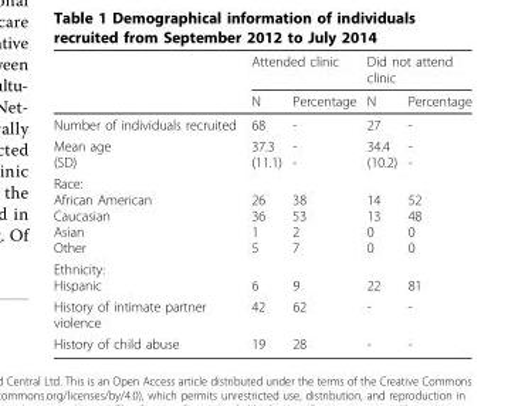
<table><thead><tr><td rowspan="2"></td><td colspan="2">Attended clinic</td><td colspan="2">Did not attend clinic</td></tr><tr><td>N</td><td>Percentage</td><td>N</td><td>Percentage</td></tr></thead><tbody><tr><td>Number of individuals recruited</td><td>68</td><td>-</td><td>27</td><td>-</td></tr><tr><td>Mean age (SD)</td><td>37.3 (11.1)</td><td>- -</td><td>34.4 (10.2)</td><td>- -</td></tr><tr><td>Race: African American Caucasian Asian Other</td><td>26 36 1 5</td><td>38 53 2 7</td><td>14 13 0 0</td><td>52 48 0 0</td></tr><tr><td>Ethnicity: Hispanic</td><td>6</td><td>9</td><td>22</td><td>81</td></tr><tr><td>History of intimate partner violence</td><td>42</td><td>62</td><td>-</td><td>-</td></tr><tr><td>History of child abuse</td><td>19</td><td>28</td><td>-</td><td>-</td></tr></tbody></table>